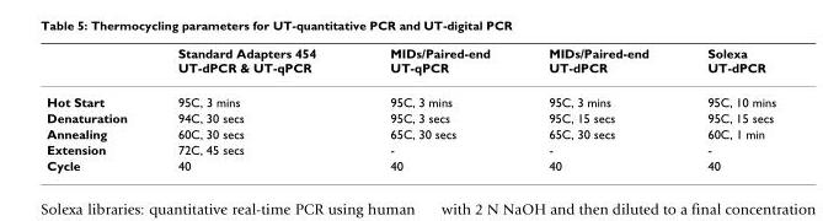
<table><thead><tr><td></td><td>Standard Adapters 454 UT-dPCR &amp; UT-qPCR</td><td>MIDs/Paired-end UT-qPCR</td><td>MIDs/Paired-end UT-dPCR</td><td>Solexa UT-dPCR</td></tr></thead><tbody><tr><td>Hot Start</td><td>95C, 3 mins</td><td>95C, 3 mins</td><td>95C, 3 mins</td><td>95C, 10 mins</td></tr><tr><td>Denaturation</td><td>94C, 30 secs</td><td>95C, 3 secs</td><td>95C, 15 secs</td><td>95C, 15 secs</td></tr><tr><td>Annealing</td><td>60C, 30 secs</td><td>65C, 30 secs</td><td>65C, 30 secs</td><td>60C, 1 min</td></tr><tr><td>Extension</td><td>72C, 45 secs</td><td>-</td><td>-</td><td>-</td></tr><tr><td>Cycle</td><td>40</td><td>40</td><td>40</td><td>40</td></tr></tbody></table>